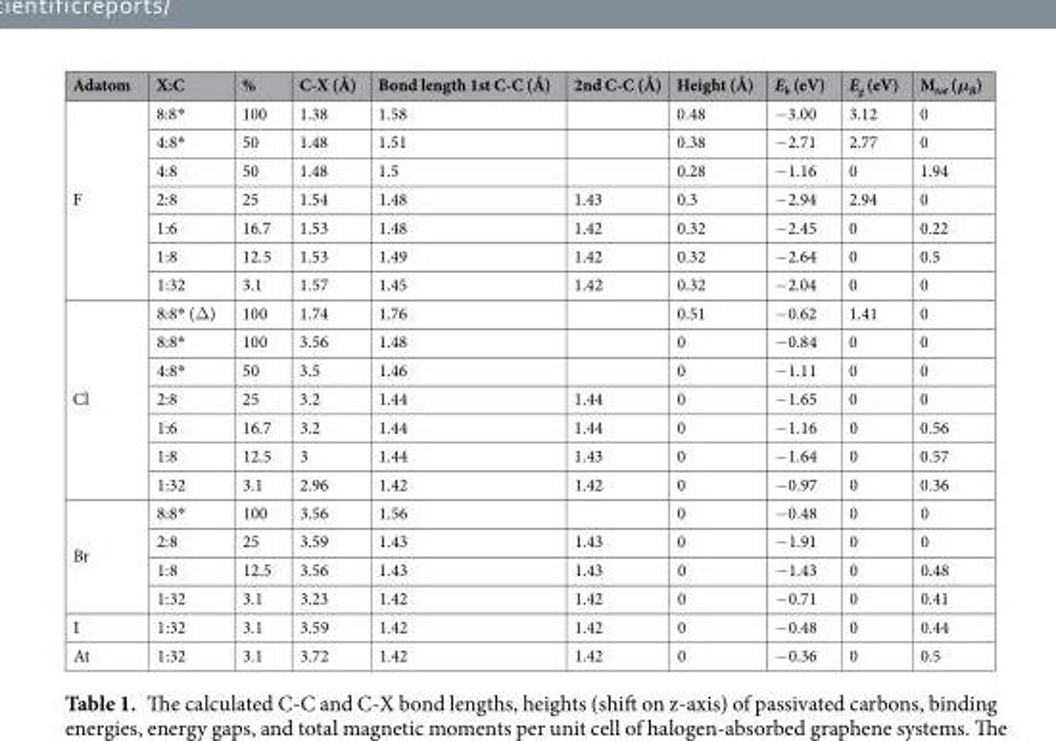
<table><thead><tr><td>Adatom</td><td>X:C</td><td>%</td><td>C-X (Å)</td><td>Bond length 1st C-C (Å)</td><td>2nd C-C (Å)</td><td>Height (Å)</td><td>E<sub>b</sub> (eV)</td><td>E<sub>g</sub> (eV)</td><td>M<sub>tot</sub> (μ<sub>B</sub>)</td></tr></thead><tbody><tr><td rowspan="7">F</td><td>8:8*</td><td>100</td><td>1.38</td><td>1.58</td><td></td><td>0.48</td><td>−3.00</td><td>3.12</td><td>0</td></tr><tr><td>4:8*</td><td>50</td><td>1.48</td><td>1.51</td><td></td><td>0.38</td><td>−2.71</td><td>2.77</td><td>0</td></tr><tr><td>4:8</td><td>50</td><td>1.48</td><td>1.5</td><td></td><td>0.28</td><td>−1.16</td><td>0</td><td>1.94</td></tr><tr><td>2:8</td><td>25</td><td>1.54</td><td>1.48</td><td>1.43</td><td>0.3</td><td>−2.94</td><td>2.94</td><td>0</td></tr><tr><td>1:6</td><td>16.7</td><td>1.53</td><td>1.48</td><td>1.42</td><td>0.32</td><td>−2.45</td><td>0</td><td>0.22</td></tr><tr><td>1:8</td><td>12.5</td><td>1.53</td><td>1.49</td><td>1.42</td><td>0.32</td><td>−2.64</td><td>0</td><td>0.5</td></tr><tr><td>1:32</td><td>3.1</td><td>1.57</td><td>1.45</td><td>1.42</td><td>0.32</td><td>−2.04</td><td>0</td><td>0</td></tr><tr><td rowspan="7">Cl</td><td>8:8* (Δ)</td><td>100</td><td>1.74</td><td>1.76</td><td></td><td>0.51</td><td>−0.62</td><td>1.41</td><td>0</td></tr><tr><td>8:8*</td><td>100</td><td>3.56</td><td>1.48</td><td></td><td>0</td><td>−0.84</td><td>0</td><td>0</td></tr><tr><td>4:8*</td><td>50</td><td>3.5</td><td>1.46</td><td></td><td>0</td><td>−1.11</td><td>0</td><td>0</td></tr><tr><td>2:8</td><td>25</td><td>3.2</td><td>1.44</td><td>1.44</td><td>0</td><td>−1.65</td><td>0</td><td>0</td></tr><tr><td>1:6</td><td>16.7</td><td>3.2</td><td>1.44</td><td>1.44</td><td>0</td><td>−1.16</td><td>0</td><td>0.56</td></tr><tr><td>1:8</td><td>12.5</td><td>3</td><td>1.44</td><td>1.43</td><td>0</td><td>−1.64</td><td>0</td><td>0.57</td></tr><tr><td>1:32</td><td>3.1</td><td>2.96</td><td>1.42</td><td>1.42</td><td>0</td><td>−0.97</td><td>0</td><td>0.36</td></tr><tr><td rowspan="4">Br</td><td>8:8*</td><td>100</td><td>3.56</td><td>1.56</td><td></td><td>0</td><td>−0.48</td><td>0</td><td>0</td></tr><tr><td>2:8</td><td>25</td><td>3.59</td><td>1.43</td><td>1.43</td><td>0</td><td>−1.91</td><td>0</td><td>0</td></tr><tr><td>1:8</td><td>12.5</td><td>3.56</td><td>1.43</td><td>1.43</td><td>0</td><td>−1.43</td><td>0</td><td>0.48</td></tr><tr><td>1:32</td><td>3.1</td><td>3.23</td><td>1.42</td><td>1.42</td><td>0</td><td>−0.71</td><td>0</td><td>0.41</td></tr><tr><td>I</td><td>1:32</td><td>3.1</td><td>3.59</td><td>1.42</td><td>1.42</td><td>0</td><td>−0.48</td><td>0</td><td>0.44</td></tr><tr><td>At</td><td>1:32</td><td>3.1</td><td>3.72</td><td>1.42</td><td>1.42</td><td>0</td><td>−0.36</td><td>0</td><td>0.5</td></tr></tbody></table>